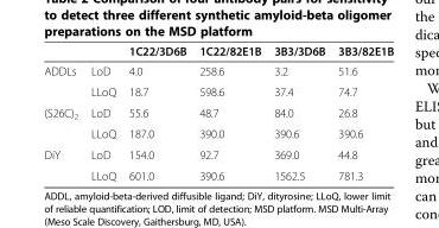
<table><thead><tr><td></td><td></td><td>1C22/3D6B</td><td>1C22/82E1B</td><td>3B3/3D6B</td><td>3B3/82E1B</td></tr></thead><tbody><tr><td rowspan="2">ADDLs</td><td>LoD</td><td>4.0</td><td>258.6</td><td>3.2</td><td>51.6</td></tr><tr><td>LLoQ</td><td>18.7</td><td>598.6</td><td>37.4</td><td>74.7</td></tr><tr><td rowspan="2">(S26C)<sub>2</sub></td><td>LoD</td><td>55.6</td><td>48.7</td><td>84.0</td><td>26.8</td></tr><tr><td>LLoQ</td><td>187.0</td><td>390.0</td><td>390.6</td><td>390.6</td></tr><tr><td rowspan="2">DiY</td><td>LoD</td><td>154.0</td><td>92.7</td><td>369.0</td><td>44.8</td></tr><tr><td>LLoQ</td><td>601.0</td><td>390.6</td><td>1562.5</td><td>781.3</td></tr></tbody></table>